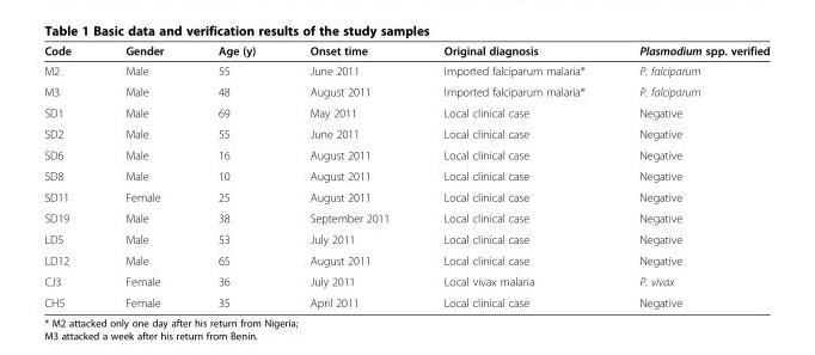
<table><thead><tr><td>Code</td><td>Gender</td><td>Age (y)</td><td>Onset time</td><td>Original diagnosis</td><td>Plasmodium spp. verified</td></tr></thead><tbody><tr><td>M2</td><td>Male</td><td>55</td><td>June 2011</td><td>Imported falciparum malaria*</td><td>P. falciparum</td></tr><tr><td>M3</td><td>Male</td><td>48</td><td>August 2011</td><td>Imported falciparum malaria*</td><td>P. falciparum</td></tr><tr><td>SD1</td><td>Male</td><td>69</td><td>May 2011</td><td>Local clinical case</td><td>Negative</td></tr><tr><td>SD2</td><td>Male</td><td>55</td><td>June 2011</td><td>Local clinical case</td><td>Negative</td></tr><tr><td>SD6</td><td>Male</td><td>16</td><td>August 2011</td><td>Local clinical case</td><td>Negative</td></tr><tr><td>SD8</td><td>Male</td><td>10</td><td>August 2011</td><td>Local clinical case</td><td>Negative</td></tr><tr><td>SD11</td><td>Female</td><td>25</td><td>August 2011</td><td>Local clinical case</td><td>Negative</td></tr><tr><td>SD19</td><td>Male</td><td>38</td><td>September 2011</td><td>Local clinical case</td><td>Negative</td></tr><tr><td>LD5</td><td>Male</td><td>53</td><td>July 2011</td><td>Local clinical case</td><td>Negative</td></tr><tr><td>LD12</td><td>Male</td><td>65</td><td>August 2011</td><td>Local clinical case</td><td>Negative</td></tr><tr><td>CJ3</td><td>Female</td><td>36</td><td>July 2011</td><td>Local vivax malaria</td><td>P. vivax</td></tr><tr><td>CH5</td><td>Female</td><td>35</td><td>April 2011</td><td>Local clinical case</td><td>Negative</td></tr></tbody></table>